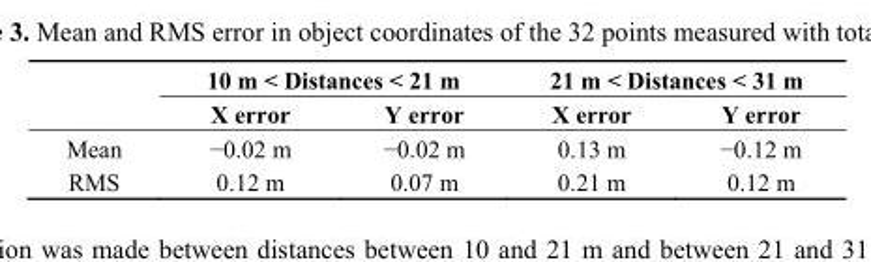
<table><thead><tr><td rowspan="2"></td><td colspan="2">10 m &lt; Distances &lt; 21 m</td><td colspan="2">21 m &lt; Distances &lt; 31 m</td></tr><tr><td>X error</td><td>Y error</td><td>X error</td><td>Y error</td></tr></thead><tbody><tr><td>Mean</td><td>−0.02 m</td><td>−0.02 m</td><td>0.13 m</td><td>−0.12 m</td></tr><tr><td>RMS</td><td>0.12 m</td><td>0.07 m</td><td>0.21 m</td><td>0.12 m</td></tr></tbody></table>